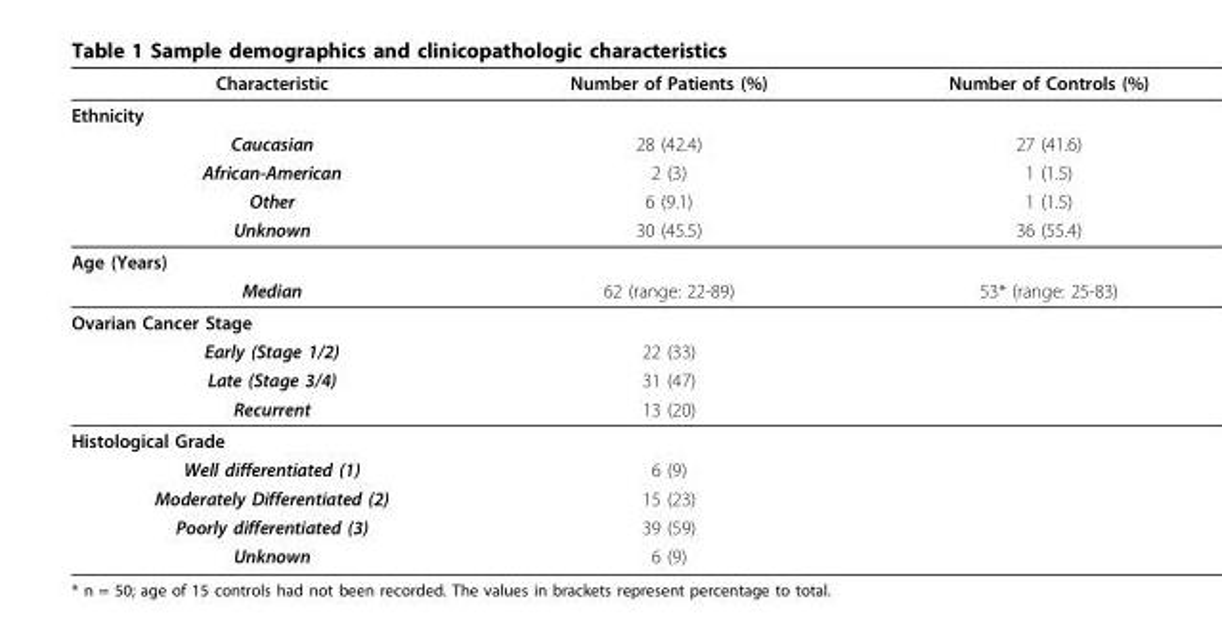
<table><thead><tr><td>Characteristic</td><td>Number of Patients (%)</td><td>Number of Controls (%)</td></tr></thead><tbody><tr><td colspan="3">Ethnicity</td></tr><tr><td>Caucasian</td><td>28 (42.4)</td><td>27 (41.6)</td></tr><tr><td>African-American</td><td>2 (3)</td><td>1 (1.5)</td></tr><tr><td>Other</td><td>6 (9.1)</td><td>1 (1.5)</td></tr><tr><td>Unknown</td><td>30 (45.5)</td><td>36 (55.4)</td></tr><tr><td colspan="3">Age (Years)</td></tr><tr><td>Median</td><td>62 (range: 22-89)</td><td>53* (range: 25-83)</td></tr><tr><td colspan="3">Ovarian Cancer Stage</td></tr><tr><td>Early (Stage 1/2)</td><td>22 (33)</td><td></td></tr><tr><td>Late (Stage 3/4)</td><td>31 (47)</td><td></td></tr><tr><td>Recurrent</td><td>13 (20)</td><td></td></tr><tr><td colspan="3">Histological Grade</td></tr><tr><td>Well differentiated (1)</td><td>6 (9)</td><td></td></tr><tr><td>Moderately Differentiated (2)</td><td>15 (23)</td><td></td></tr><tr><td>Poorly differentiated (3)</td><td>39 (59)</td><td></td></tr><tr><td>Unknown</td><td>6 (9)</td><td></td></tr></tbody></table>